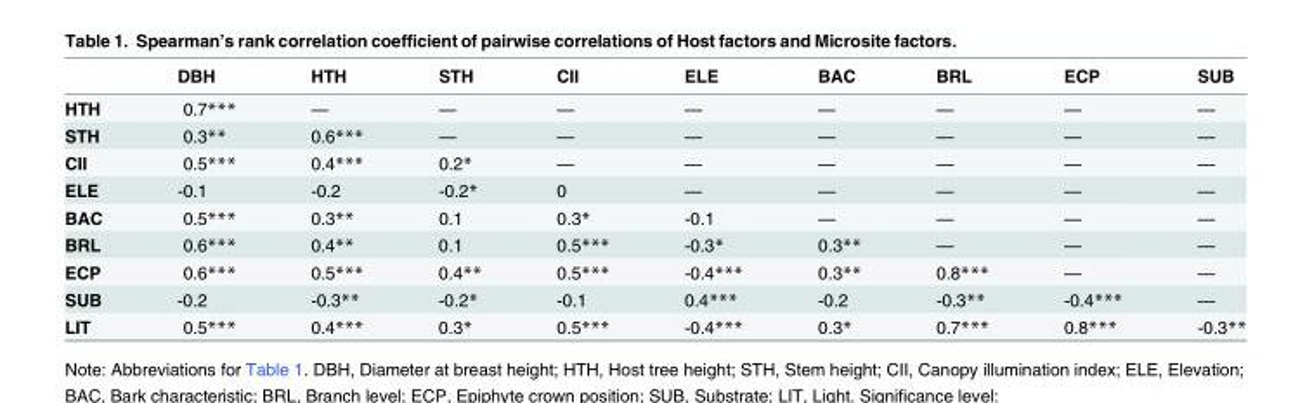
<table><thead><tr><td></td><td>DBH</td><td>HTH</td><td>STH</td><td>CII</td><td>ELE</td><td>BAC</td><td>BRL</td><td>ECP</td><td>SUB</td></tr></thead><tbody><tr><td>HTH</td><td>0.7***</td><td>—</td><td>—</td><td>—</td><td>—</td><td>—</td><td>—</td><td>—</td><td>—</td></tr><tr><td>STH</td><td>0.3**</td><td>0.6***</td><td>—</td><td>—</td><td>—</td><td>—</td><td>—</td><td>—</td><td>—</td></tr><tr><td>CII</td><td>0.5***</td><td>0.4***</td><td>0.2*</td><td>—</td><td>—</td><td>—</td><td>—</td><td>—</td><td>—</td></tr><tr><td>ELE</td><td>-0.1</td><td>-0.2</td><td>-0.2*</td><td>0</td><td>—</td><td>—</td><td>—</td><td>—</td><td>—</td></tr><tr><td>BAC</td><td>0.5***</td><td>0.3**</td><td>0.1</td><td>0.3*</td><td>-0.1</td><td>—</td><td>—</td><td>—</td><td>—</td></tr><tr><td>BRL</td><td>0.6***</td><td>0.4**</td><td>0.1</td><td>0.5***</td><td>-0.3*</td><td>0.3**</td><td>—</td><td>—</td><td>—</td></tr><tr><td>ECP</td><td>0.6***</td><td>0.5***</td><td>0.4**</td><td>0.5***</td><td>-0.4***</td><td>0.3**</td><td>0.8***</td><td>—</td><td>—</td></tr><tr><td>SUB</td><td>-0.2</td><td>-0.3**</td><td>-0.2*</td><td>-0.1</td><td>0.4***</td><td>-0.2</td><td>-0.3**</td><td>-0.4***</td><td>—</td></tr><tr><td>LIT</td><td>0.5***</td><td>0.4***</td><td>0.3*</td><td>0.5***</td><td>-0.4***</td><td>0.3*</td><td>0.7***</td><td>0.8***</td><td>-0.3**</td></tr></tbody></table>